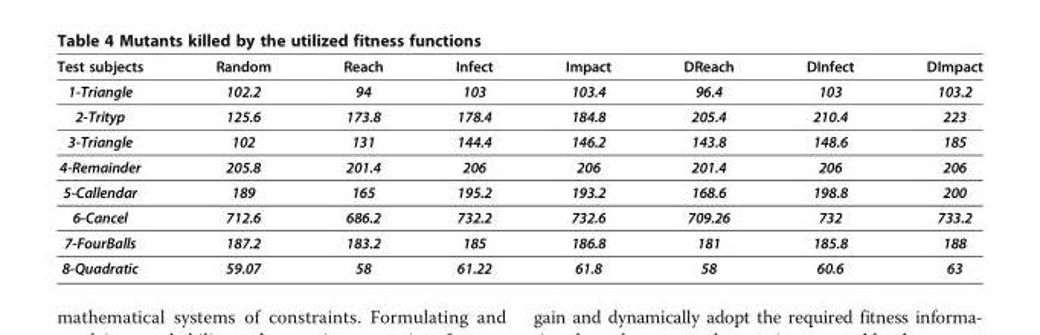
<table><thead><tr><td>Test subjects</td><td>Random</td><td>Reach</td><td>Infect</td><td>Impact</td><td>DReach</td><td>DInfect</td><td>DImpact</td></tr></thead><tbody><tr><td>1-Triangle</td><td>102.2</td><td>94</td><td>103</td><td>103.4</td><td>96.4</td><td>103</td><td>103.2</td></tr><tr><td>2-Trityp</td><td>125.6</td><td>173.8</td><td>178.4</td><td>184.8</td><td>205.4</td><td>210.4</td><td>223</td></tr><tr><td>3-Triangle</td><td>102</td><td>131</td><td>144.4</td><td>146.2</td><td>143.8</td><td>148.6</td><td>185</td></tr><tr><td>4-Remainder</td><td>205.8</td><td>201.4</td><td>206</td><td>206</td><td>201.4</td><td>206</td><td>206</td></tr><tr><td>5-Callendar</td><td>189</td><td>165</td><td>195.2</td><td>193.2</td><td>168.6</td><td>198.8</td><td>200</td></tr><tr><td>6-Cancel</td><td>712.6</td><td>686.2</td><td>732.2</td><td>732.6</td><td>709.26</td><td>732</td><td>733.2</td></tr><tr><td>7-FourBalls</td><td>187.2</td><td>183.2</td><td>185</td><td>186.8</td><td>181</td><td>185.8</td><td>188</td></tr><tr><td>8-Quadratic</td><td>59.07</td><td>58</td><td>61.22</td><td>61.8</td><td>58</td><td>60.6</td><td>63</td></tr></tbody></table>